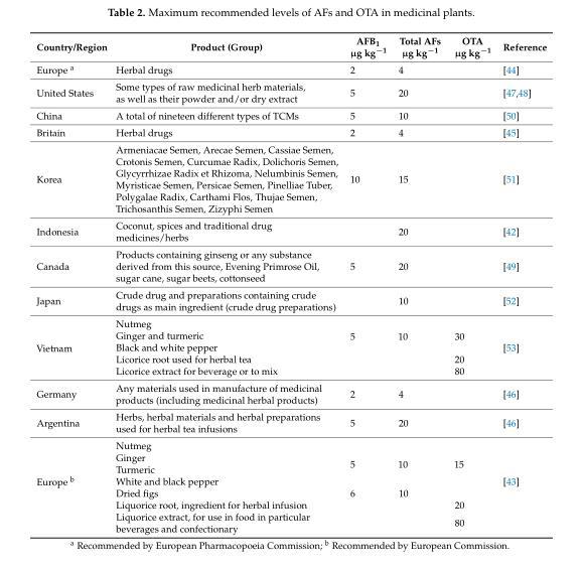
<table><thead><tr><td>Country/Region</td><td>Product (Group)</td><td>AFB<sub>1</sub> µg kg<sup>−1</sup></td><td>Total AFs µg kg<sup>−1</sup></td><td>OTA µg kg<sup>−1</sup></td><td>Reference</td></tr></thead><tbody><tr><td>Europe <sup>a</sup></td><td>Herbal drugs</td><td>2</td><td>4</td><td></td><td>[44]</td></tr><tr><td>United States</td><td>Some types of raw medicinal herb materials, as well as their powder and/or dry extract</td><td>5</td><td>20</td><td></td><td>[47,48]</td></tr><tr><td>China</td><td>A total of nineteen different types of TCMs</td><td>5</td><td>10</td><td></td><td>[50]</td></tr><tr><td>Britain</td><td>Herbal drugs</td><td>2</td><td>4</td><td></td><td>[45]</td></tr><tr><td>Korea</td><td>Armeniacae Semen, Arecae Semen, Cassiae Semen, Crotonis Semen, Curcumae Radix, Dolichoris Semen, Glycyrrhizae Radix et Rhizoma, Nelumbinis Semen, Myristicae Semen, Persicae Semen, Pinelliae Tuber, Polygalae Radix, Carthami Flos, Thujae Semen, Trichosanthis Semen, Zizyphi Semen</td><td>10</td><td>15</td><td></td><td>[51]</td></tr><tr><td>Indonesia</td><td>Coconut, spices and traditional drug medicines/herbs</td><td></td><td>20</td><td></td><td>[42]</td></tr><tr><td>Canada</td><td>Products containing ginseng or any substance derived from this source, Evening Primrose Oil, sugar cane, sugar beets, cottonseed</td><td>5</td><td>20</td><td></td><td>[49]</td></tr><tr><td>Japan</td><td>Crude drug and preparations containing crude drugs as main ingredient (crude drug preparations)</td><td></td><td>10</td><td></td><td>[52]</td></tr><tr><td rowspan="5">Vietnam</td><td>Nutmeg</td><td rowspan="3">5</td><td rowspan="3">10</td><td rowspan="3">30</td><td rowspan="5">[53]</td></tr><tr><td>Ginger and turmeric</td></tr><tr><td>Black and white pepper</td></tr><tr><td>Licorice root used for herbal tea</td><td></td><td></td><td>20</td></tr><tr><td>Licorice extract for beverage or to mix</td><td></td><td></td><td>80</td></tr><tr><td>Germany</td><td>Any materials used in manufacture of medicinal products (including medicinal herbal products)</td><td>2</td><td>4</td><td></td><td>[46]</td></tr><tr><td>Argentina</td><td>Herbs, herbal materials and herbal preparations used for herbal tea infusions</td><td>5</td><td>20</td><td></td><td>[46]</td></tr><tr><td rowspan="7">Europe <sup>b</sup></td><td>Nutmeg</td><td rowspan="4">5</td><td rowspan="4">10</td><td rowspan="4">15</td><td rowspan="7">[43]</td></tr><tr><td>Ginger</td></tr><tr><td>Turmeric</td></tr><tr><td>White and black pepper</td></tr><tr><td>Dried figs</td><td>6</td><td>10</td><td></td></tr><tr><td>Liquorice root, ingredient for herbal infusion</td><td></td><td></td><td>20</td></tr><tr><td>Liquorice extract, for use in food in particular beverages and confectionary</td><td></td><td></td><td>80</td></tr></tbody></table>